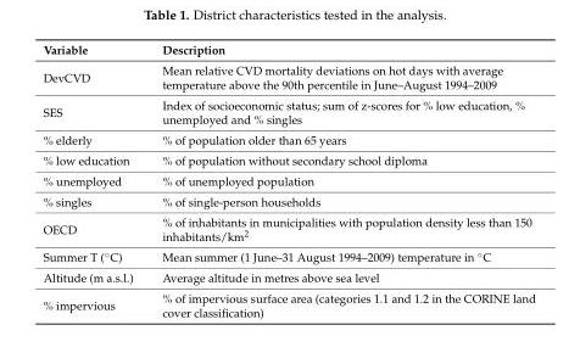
<table><thead><tr><td>Variable</td><td>Description</td></tr></thead><tbody><tr><td>DevCVD</td><td>Mean relative CVD mortality deviations on hot days with average temperature above the 90th percentile in June–August 1994–2009</td></tr><tr><td>SES</td><td>Index of socioeconomic status; sum of z-scores for % low education, % unemployed and % singles</td></tr><tr><td>% elderly</td><td>% of population older than 65 years</td></tr><tr><td>% low education</td><td>% of population without secondary school diploma</td></tr><tr><td>% unemployed</td><td>% of unemployed population</td></tr><tr><td>% singles</td><td>% of single-person households</td></tr><tr><td>OECD</td><td>% of inhabitants in municipalities with population density less than 150 inhabitants/km<sup>2</sup></td></tr><tr><td>Summer T (˝C)</td><td>Mean summer (1 June–31 August 1994–2009) temperature in ˝C</td></tr><tr><td>Altitude (m a.s.l.)</td><td>Average altitude in metres above sea level</td></tr><tr><td>% impervious</td><td>% of impervious surface area (categories 1.1 and 1.2 in the CORINE land cover classification)</td></tr></tbody></table>